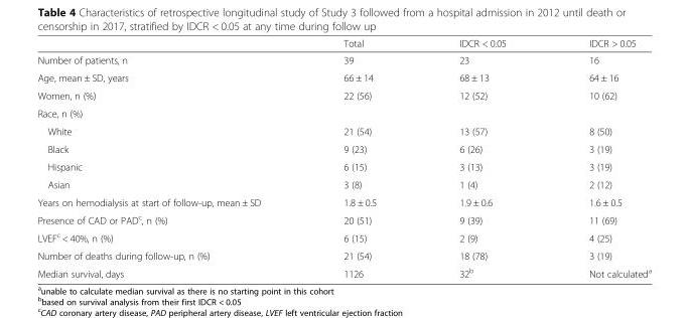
<table><thead><tr><td></td><td>Total</td><td>IDCR &lt; 0.05</td><td>IDCR &gt; 0.05</td></tr></thead><tbody><tr><td>Number of patients, n</td><td>39</td><td>23</td><td>16</td></tr><tr><td>Age, mean ± SD, years</td><td>66 ± 14</td><td>68 ± 13</td><td>64 ± 16</td></tr><tr><td>Women, n (%)</td><td>22 (56)</td><td>12 (52)</td><td>10 (62)</td></tr><tr><td colspan="4">Race, n (%)</td></tr><tr><td>White</td><td>21 (54)</td><td>13 (57)</td><td>8 (50)</td></tr><tr><td>Black</td><td>9 (23)</td><td>6 (26)</td><td>3 (19)</td></tr><tr><td>Hispanic</td><td>6 (15)</td><td>3 (13)</td><td>3 (19)</td></tr><tr><td>Asian</td><td>3 (8)</td><td>1 (4)</td><td>2 (12)</td></tr><tr><td>Years on hemodialysis at start of follow-up, mean ± SD</td><td>1.8 ± 0.5</td><td>1.9 ± 0.6</td><td>1.6 ± 0.5</td></tr><tr><td>Presence of CAD or PAD<sup>c</sup>, n (%)</td><td>20 (51)</td><td>9 (39)</td><td>11 (69)</td></tr><tr><td>LVEF<sup>c</sup> &lt; 40%, n (%)</td><td>6 (15)</td><td>2 (9)</td><td>4 (25)</td></tr><tr><td>Number of deaths during follow-up, n (%)</td><td>21 (54)</td><td>18 (78)</td><td>3 (19)</td></tr><tr><td>Median survival, days</td><td>1126</td><td>32<sup>b</sup></td><td>Not calculated<sup>a</sup></td></tr></tbody></table>